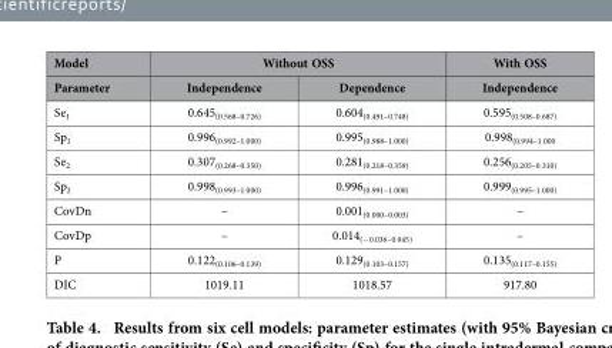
<table><thead><tr><td rowspan="2">Model Parameter</td><td colspan="2">Without OSS</td><td rowspan="2">With OSS Independence</td></tr><tr><td>Independence</td><td>Dependence</td></tr></thead><tbody><tr><td>Se<sub>1</sub></td><td>0.645<sub>(0.568–0.726)</sub></td><td>0.604<sub>(0.491–0.748)</sub></td><td>0.595<sub>(0.508–0.687)</sub></td></tr><tr><td>Sp<sub>1</sub></td><td>0.996<sub>(0.992–1.000)</sub></td><td>0.995<sub>(0.988–1.000)</sub></td><td>0.998<sub>(0.994–1.000</sub></td></tr><tr><td>Se<sub>2</sub></td><td>0.307<sub>(0.268–0.350)</sub></td><td>0.281<sub>(0.218–0.359)</sub></td><td>0.256<sub>(0.205–0.310)</sub></td></tr><tr><td>Sp<sub>2</sub></td><td>0.998<sub>(0.993–1.000)</sub></td><td>0.996<sub>(0.991–1.000)</sub></td><td>0.999<sub>(0.995–1.000)</sub></td></tr><tr><td>CovDn</td><td><sub>–</sub></td><td>0.001<sub>(0.000–0.003)</sub></td><td><sub>–</sub></td></tr><tr><td>CovDp</td><td><sub>–</sub></td><td>0.014<sub>(−0.036–0.045)</sub></td><td><sub>–</sub></td></tr><tr><td>P</td><td>0.122<sub>(0.106–0.139)</sub></td><td>0.129<sub>(0.103–0.157)</sub></td><td>0.135<sub>(0.117–0.155)</sub></td></tr><tr><td>DIC</td><td>1019.11</td><td>1018.57</td><td>917.80</td></tr></tbody></table>